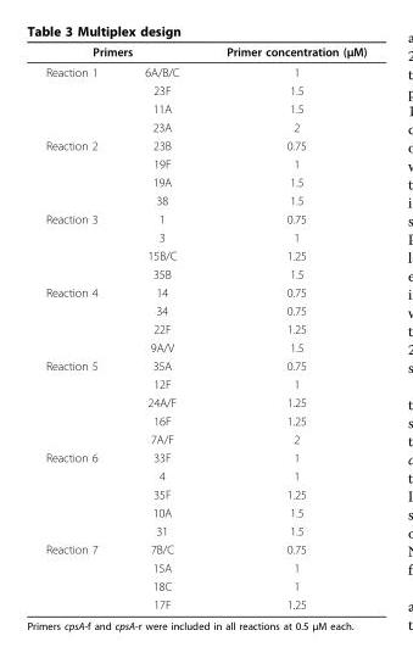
<table><thead><tr><td colspan="2">Primers</td><td rowspan="2">Primer concentration (μM) 1</td></tr><tr><td>Reaction 1</td><td>6A/B/C</td></tr></thead><tbody><tr><td></td><td>23F</td><td>1.5</td></tr><tr><td></td><td>11A</td><td>1.5</td></tr><tr><td></td><td>23A</td><td>2</td></tr><tr><td rowspan="4">Reaction 2</td><td>23B</td><td>0.75</td></tr><tr><td>19F</td><td>1</td></tr><tr><td>19A</td><td>1.5</td></tr><tr><td>38</td><td>1.5</td></tr><tr><td rowspan="4">Reaction 3</td><td>1</td><td>0.75</td></tr><tr><td>3</td><td>1</td></tr><tr><td>15B/C</td><td>1.25</td></tr><tr><td>35B</td><td>1.5</td></tr><tr><td rowspan="4">Reaction 4</td><td>14</td><td>0.75</td></tr><tr><td>34</td><td>0.75</td></tr><tr><td>22F</td><td>1.25</td></tr><tr><td>9A/V</td><td>1.5</td></tr><tr><td rowspan="5">Reaction 5</td><td>35A</td><td>0.75</td></tr><tr><td>12F</td><td>1</td></tr><tr><td>24A/F</td><td>1.25</td></tr><tr><td>16F</td><td>1.25</td></tr><tr><td>7A/F</td><td>2</td></tr><tr><td rowspan="5">Reaction 6</td><td>33F</td><td>1</td></tr><tr><td>4</td><td>1</td></tr><tr><td>35F</td><td>1.25</td></tr><tr><td>10A</td><td>1.5</td></tr><tr><td>31</td><td>1.5</td></tr><tr><td rowspan="4">Reaction 7</td><td>7B/C</td><td>0.75</td></tr><tr><td>15A</td><td>1</td></tr><tr><td>18C</td><td>1</td></tr><tr><td>17F</td><td>1.25</td></tr></tbody></table>